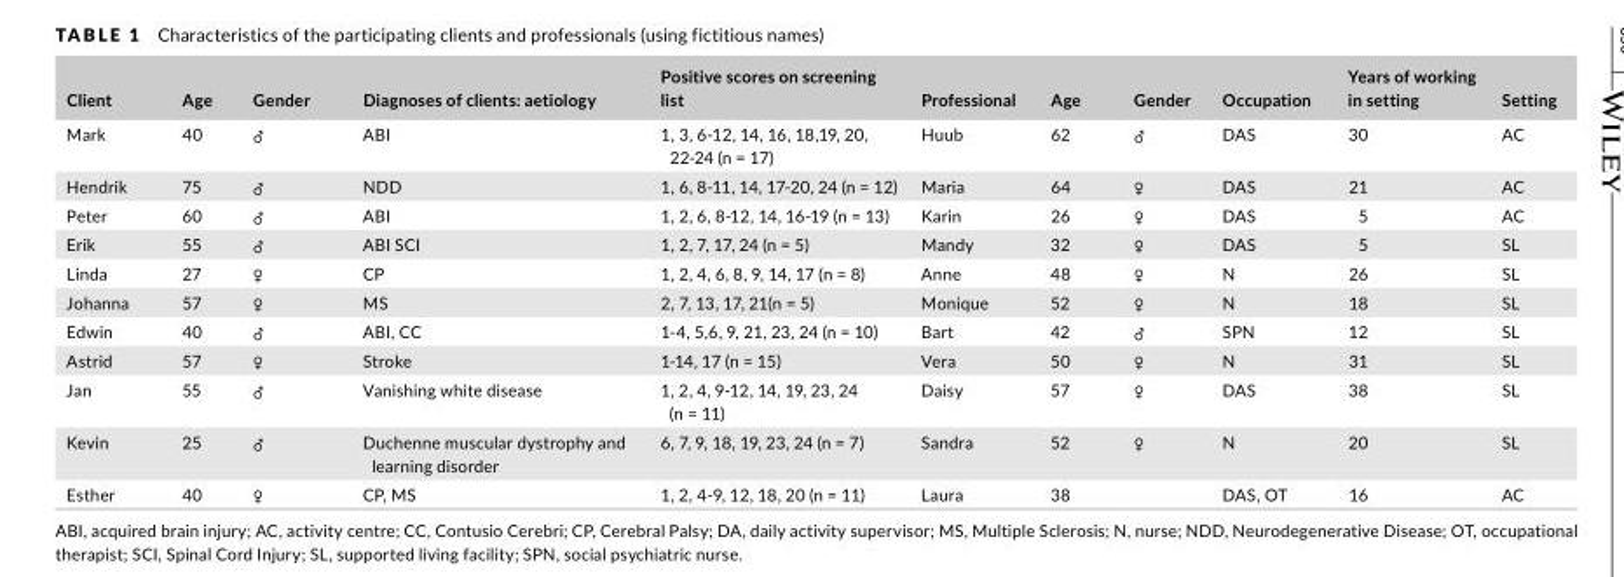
<table><thead><tr><td>Client</td><td>Age</td><td>Gender</td><td>Diagnoses of clients: aetiology</td><td>Positive scores on screening list</td><td>Professional</td><td>Age</td><td>Gender</td><td>Occupation</td><td>Years of working in setting</td><td>Setting</td></tr></thead><tbody><tr><td>Mark</td><td>40</td><td>♂</td><td>ABI</td><td>1, 3, 6- 12, 14, 16, 18,19, 20, 22- 24 (n = 17)</td><td>Huub</td><td>62</td><td>♂</td><td>DAS</td><td>30</td><td>AC</td></tr><tr><td>Hendrik</td><td>75</td><td>♂</td><td>NDD</td><td>1, 6, 8- 11, 14, 17- 20, 24 (n = 12)</td><td>Maria</td><td>64</td><td>♀</td><td>DAS</td><td>21</td><td>AC</td></tr><tr><td>Peter</td><td>60</td><td>♂</td><td>ABI</td><td>1, 2, 6, 8- 12, 14, 16- 19 (n = 13)</td><td>Karin</td><td>26</td><td>♀</td><td>DAS</td><td>5</td><td>AC</td></tr><tr><td>Erik</td><td>55</td><td>♂</td><td>ABI SCI</td><td>1, 2, 7, 17, 24 (n = 5)</td><td>Mandy</td><td>32</td><td>♀</td><td>DAS</td><td>5</td><td>SL</td></tr><tr><td>Linda</td><td>27</td><td>♀</td><td>CP</td><td>1, 2, 4, 6, 8, 9, 14, 17 (n = 8)</td><td>Anne</td><td>48</td><td>♀</td><td>N</td><td>26</td><td>SL</td></tr><tr><td>Johanna</td><td>57</td><td>♀</td><td>MS</td><td>2, 7, 13, 17, 21(n = 5)</td><td>Monique</td><td>52</td><td>♀</td><td>N</td><td>18</td><td>SL</td></tr><tr><td>Edwin</td><td>40</td><td>♂</td><td>ABI, CC</td><td>1- 4, 5,6, 9, 21, 23, 24 (n = 10)</td><td>Bart</td><td>42</td><td>♂</td><td>SPN</td><td>12</td><td>SL</td></tr><tr><td>Astrid</td><td>57</td><td>♀</td><td>Stroke</td><td>1- 14, 17 (n = 15)</td><td>Vera</td><td>50</td><td>♀</td><td>N</td><td>31</td><td>SL</td></tr><tr><td>Jan</td><td>55</td><td>♂</td><td>Vanishing white disease</td><td>1, 2, 4, 9- 12, 14, 19, 23, 24 (n = 11)</td><td>Daisy</td><td>57</td><td>♀</td><td>DAS</td><td>38</td><td>SL</td></tr><tr><td>Kevin</td><td>25</td><td>♂</td><td>Duchenne muscular dystrophy and learning disorder</td><td>6, 7, 9, 18, 19, 23, 24 (n = 7)</td><td>Sandra</td><td>52</td><td>♀</td><td>N</td><td>20</td><td>SL</td></tr><tr><td>Esther</td><td>40</td><td>♀</td><td>CP, MS</td><td>1, 2, 4- 9, 12, 18, 20 (n = 11)</td><td>Laura</td><td>38</td><td></td><td>DAS, OT</td><td>16</td><td>AC</td></tr></tbody></table>